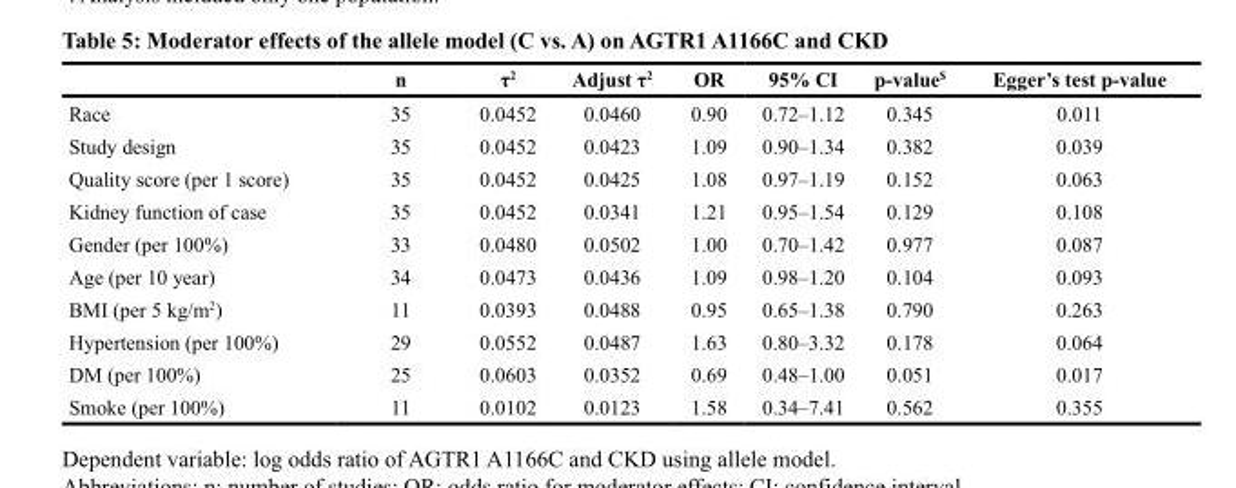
<table><thead><tr><td></td><td>n</td><td>τ<sup>2</sup></td><td>Adjust τ<sup>2</sup></td><td>OR</td><td>95% CI</td><td>p-value<sup>$</sup></td><td>Egger’s test p-value</td></tr></thead><tbody><tr><td>Race</td><td>35</td><td>0.0452</td><td>0.0460</td><td>0.90</td><td>0.72–1.12</td><td>0.345</td><td>0.011</td></tr><tr><td>Study design</td><td>35</td><td>0.0452</td><td>0.0423</td><td>1.09</td><td>0.90–1.34</td><td>0.382</td><td>0.039</td></tr><tr><td>Quality score (per 1 score)</td><td>35</td><td>0.0452</td><td>0.0425</td><td>1.08</td><td>0.97–1.19</td><td>0.152</td><td>0.063</td></tr><tr><td>Kidney function of case</td><td>35</td><td>0.0452</td><td>0.0341</td><td>1.21</td><td>0.95–1.54</td><td>0.129</td><td>0.108</td></tr><tr><td>Gender (per 100%)</td><td>33</td><td>0.0480</td><td>0.0502</td><td>1.00</td><td>0.70–1.42</td><td>0.977</td><td>0.087</td></tr><tr><td>Age (per 10 year)</td><td>34</td><td>0.0473</td><td>0.0436</td><td>1.09</td><td>0.98–1.20</td><td>0.104</td><td>0.093</td></tr><tr><td>BMI (per 5 kg/m<sup>2</sup>)</td><td>11</td><td>0.0393</td><td>0.0488</td><td>0.95</td><td>0.65–1.38</td><td>0.790</td><td>0.263</td></tr><tr><td>Hypertension (per 100%)</td><td>29</td><td>0.0552</td><td>0.0487</td><td>1.63</td><td>0.80–3.32</td><td>0.178</td><td>0.064</td></tr><tr><td>DM (per 100%)</td><td>25</td><td>0.0603</td><td>0.0352</td><td>0.69</td><td>0.48–1.00</td><td>0.051</td><td>0.017</td></tr><tr><td>Smoke (per 100%)</td><td>11</td><td>0.0102</td><td>0.0123</td><td>1.58</td><td>0.34–7.41</td><td>0.562</td><td>0.355</td></tr></tbody></table>